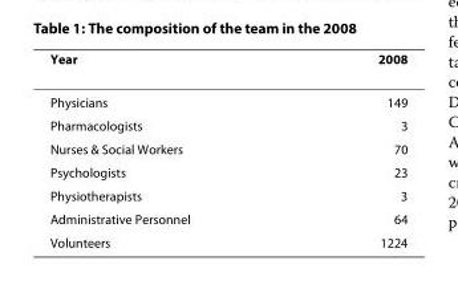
<table><thead><tr><td>Year</td><td>2008</td></tr></thead><tbody><tr><td>Physicians</td><td>149</td></tr><tr><td>Pharmacologists</td><td>3</td></tr><tr><td>Nurses &amp; Social Workers</td><td>70</td></tr><tr><td>Psychologists</td><td>23</td></tr><tr><td>Physiotherapists</td><td>3</td></tr><tr><td>Administrative Personnel</td><td>64</td></tr><tr><td>Volunteers</td><td>1224</td></tr></tbody></table>